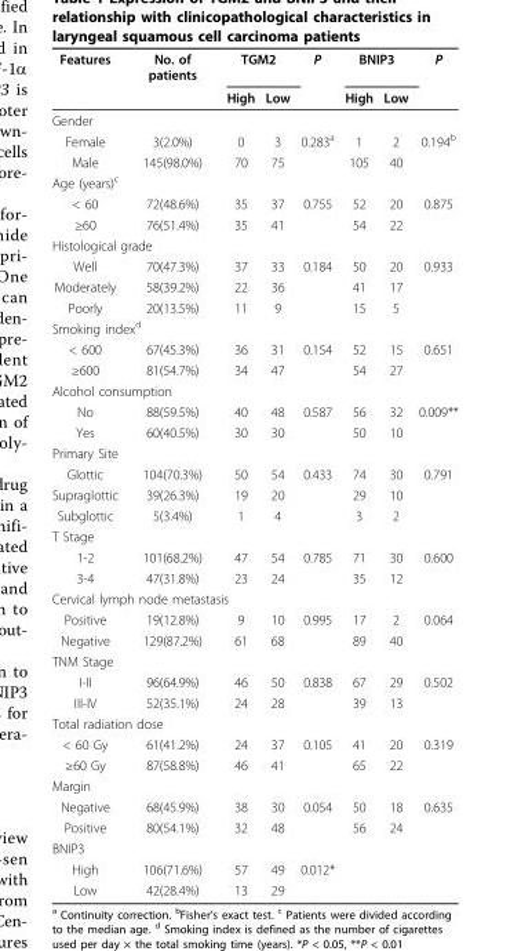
<table><thead><tr><td rowspan="2">Features</td><td rowspan="2">No. of patients</td><td colspan="2">TGM2</td><td rowspan="2">P</td><td colspan="2">BNIP3</td><td rowspan="2">P</td></tr><tr><td>High</td><td>Low</td><td>High</td><td>Low</td></tr></thead><tbody><tr><td colspan="8">Gender</td></tr><tr><td>Female</td><td>3(2.0%)</td><td>0</td><td>3</td><td>0.283<sup>a</sup></td><td>1</td><td>2</td><td>0.194<sup>b</sup></td></tr><tr><td>Male</td><td>145(98.0%)</td><td>70</td><td>75</td><td></td><td>105</td><td>40</td><td></td></tr><tr><td colspan="8">Age (years)<sup>c</sup></td></tr><tr><td>&lt; 60</td><td>72(48.6%)</td><td>35</td><td>37</td><td>0.755</td><td>52</td><td>20</td><td>0.875</td></tr><tr><td>≥60</td><td>76(51.4%)</td><td>35</td><td>41</td><td></td><td>54</td><td>22</td><td></td></tr><tr><td colspan="8">Histological grade</td></tr><tr><td>Well</td><td>70(47.3%)</td><td>37</td><td>33</td><td>0.184</td><td>50</td><td>20</td><td>0.933</td></tr><tr><td>Moderately</td><td>58(39.2%)</td><td>22</td><td>36</td><td></td><td>41</td><td>17</td><td></td></tr><tr><td>Poorly</td><td>20(13.5%)</td><td>11</td><td>9</td><td></td><td>15</td><td>5</td><td></td></tr><tr><td colspan="8">Smoking index<sup>d</sup></td></tr><tr><td>&lt; 600</td><td>67(45.3%)</td><td>36</td><td>31</td><td>0.154</td><td>52</td><td>15</td><td>0.651</td></tr><tr><td>≥600</td><td>81(54.7%)</td><td>34</td><td>47</td><td></td><td>54</td><td>27</td><td></td></tr><tr><td colspan="8">Alcohol consumption</td></tr><tr><td>No</td><td>88(59.5%)</td><td>40</td><td>48</td><td>0.587</td><td>56</td><td>32</td><td>0.009**</td></tr><tr><td>Yes</td><td>60(40.5%)</td><td>30</td><td>30</td><td></td><td>50</td><td>10</td><td></td></tr><tr><td colspan="8">Primary Site</td></tr><tr><td>Glottic</td><td>104(70.3%)</td><td>50</td><td>54</td><td>0.433</td><td>74</td><td>30</td><td>0.791</td></tr><tr><td>Supraglottic</td><td>39(26.3%)</td><td>19</td><td>20</td><td></td><td>29</td><td>10</td><td></td></tr><tr><td>Subglottic</td><td>5(3.4%)</td><td>1</td><td>4</td><td></td><td>3</td><td>2</td><td></td></tr><tr><td colspan="8">T Stage</td></tr><tr><td>1-2</td><td>101(68.2%)</td><td>47</td><td>54</td><td>0.785</td><td>71</td><td>30</td><td>0.600</td></tr><tr><td>3-4</td><td>47(31.8%)</td><td>23</td><td>24</td><td></td><td>35</td><td>12</td><td></td></tr><tr><td colspan="8">Cervical lymph node metastasis</td></tr><tr><td>Positive</td><td>19(12.8%)</td><td>9</td><td>10</td><td>0.995</td><td>17</td><td>2</td><td>0.064</td></tr><tr><td>Negative</td><td>129(87.2%)</td><td>61</td><td>68</td><td></td><td>89</td><td>40</td><td></td></tr><tr><td colspan="8">TNM Stage</td></tr><tr><td>I-II</td><td>96(64.9%)</td><td>46</td><td>50</td><td>0.838</td><td>67</td><td>29</td><td>0.502</td></tr><tr><td>III-IV</td><td>52(35.1%)</td><td>24</td><td>28</td><td></td><td>39</td><td>13</td><td></td></tr><tr><td colspan="8">Total radiation dose</td></tr><tr><td>&lt; 60 Gy</td><td>61(41.2%)</td><td>24</td><td>37</td><td>0.105</td><td>41</td><td>20</td><td>0.319</td></tr><tr><td>≥60 Gy</td><td>87(58.8%)</td><td>46</td><td>41</td><td></td><td>65</td><td>22</td><td></td></tr><tr><td colspan="8">Margin</td></tr><tr><td>Negative</td><td>68(45.9%)</td><td>38</td><td>30</td><td>0.054</td><td>50</td><td>18</td><td>0.635</td></tr><tr><td>Positive</td><td>80(54.1%)</td><td>32</td><td>48</td><td></td><td>56</td><td>24</td><td></td></tr><tr><td colspan="8">BNIP3</td></tr><tr><td>High</td><td>106(71.6%)</td><td>57</td><td>49</td><td>0.012*</td><td></td><td></td><td></td></tr><tr><td>Low</td><td>42(28.4%)</td><td>13</td><td>29</td><td></td><td></td><td></td><td></td></tr></tbody></table>